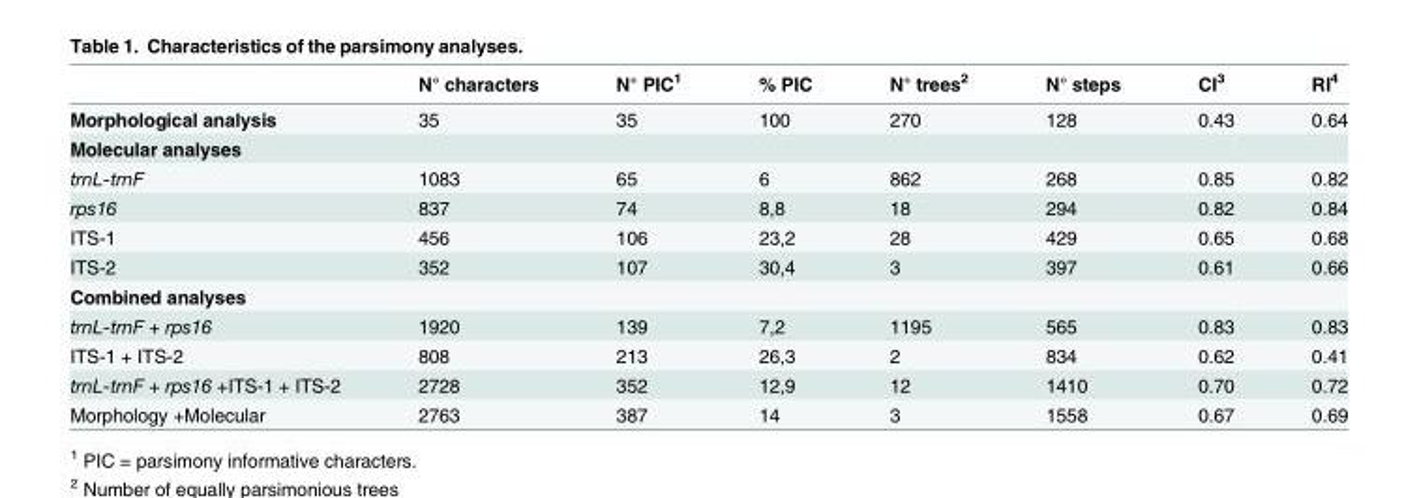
<table><thead><tr><td></td><td>N° characters</td><td>N° PIC<sup>1</sup></td><td>% PIC</td><td>N° trees<sup>2</sup></td><td>N° steps</td><td>CI<sup>3</sup></td><td>RI<sup>4</sup></td></tr></thead><tbody><tr><td>Morphological analysis</td><td>35</td><td>35</td><td>100</td><td>270</td><td>128</td><td>0.43</td><td>0.64</td></tr><tr><td colspan="8">Molecular analyses</td></tr><tr><td>trnL-trnF</td><td>1083</td><td>65</td><td>6</td><td>862</td><td>268</td><td>0.85</td><td>0.82</td></tr><tr><td>rps16</td><td>837</td><td>74</td><td>8,8</td><td>18</td><td>294</td><td>0.82</td><td>0.84</td></tr><tr><td>ITS-1</td><td>456</td><td>106</td><td>23,2</td><td>28</td><td>429</td><td>0.65</td><td>0.68</td></tr><tr><td>ITS-2</td><td>352</td><td>107</td><td>30,4</td><td>3</td><td>397</td><td>0.61</td><td>0.66</td></tr><tr><td colspan="8">Combined analyses</td></tr><tr><td>trnL-trnF + rps16</td><td>1920</td><td>139</td><td>7,2</td><td>1195</td><td>565</td><td>0.83</td><td>0.83</td></tr><tr><td>ITS-1 + ITS-2</td><td>808</td><td>213</td><td>26,3</td><td>2</td><td>834</td><td>0.62</td><td>0.41</td></tr><tr><td>trnL-trnF + rps16 +ITS-1 + ITS-2</td><td>2728</td><td>352</td><td>12,9</td><td>12</td><td>1410</td><td>0.70</td><td>0.72</td></tr><tr><td>Morphology +Molecular</td><td>2763</td><td>387</td><td>14</td><td>3</td><td>1558</td><td>0.67</td><td>0.69</td></tr></tbody></table>